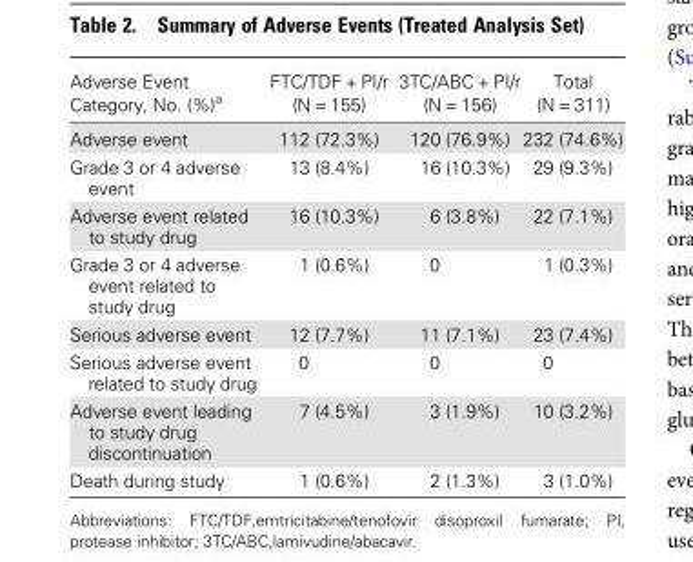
<table><thead><tr><td>Adverse Event Category, No. (%)<sup>a</sup></td><td>FTC/TDF + PI/r (N = 155)</td><td>3TC/ABC + PI/r (N = 156)</td><td>Total (N = 311)</td></tr></thead><tbody><tr><td>Adverse event</td><td>112 (72.3%)</td><td>120 (76.9%)</td><td>232 (74.6%)</td></tr><tr><td>Grade 3 or 4 adverse event</td><td>13 (8.4%)</td><td>16 (10.3%)</td><td>29 (9.3%)</td></tr><tr><td>Adverse event related to study drug</td><td>16 (10.3%)</td><td>6 (3.8%)</td><td>22 (7.1%)</td></tr><tr><td>Grade 3 or 4 adverse event related to study drug</td><td>1 (0.6%)</td><td>0</td><td>1 (0.3%)</td></tr><tr><td>Serious adverse event</td><td>12 (7.7%)</td><td>11 (7.1%)</td><td>23 (7.4%)</td></tr><tr><td>Serious adverse event related to study drug</td><td>0</td><td>0</td><td>0</td></tr><tr><td>Adverse event leading to study drug discontinuation</td><td>7 (4.5%)</td><td>3 (1.9%)</td><td>10 (3.2%)</td></tr><tr><td>Death during study</td><td>1 (0.6%)</td><td>2 (1.3%)</td><td>3 (1.0%)</td></tr></tbody></table>